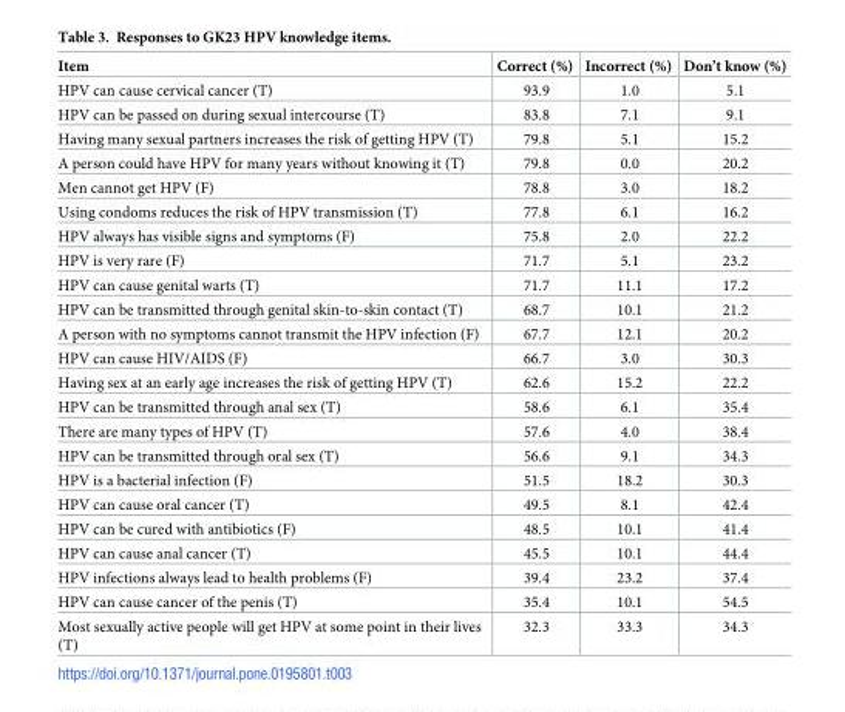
<table><thead><tr><td>Item</td><td>Correct (%)</td><td>Incorrect (%)</td><td>Don’t know (%)</td></tr></thead><tbody><tr><td>HPV can cause cervical cancer (T)</td><td>93.9</td><td>1.0</td><td>5.1</td></tr><tr><td>HPV can be passed on during sexual intercourse (T)</td><td>83.8</td><td>7.1</td><td>9.1</td></tr><tr><td>Having many sexual partners increases the risk of getting HPV (T)</td><td>79.8</td><td>5.1</td><td>15.2</td></tr><tr><td>A person could have HPV for many years without knowing it (T)</td><td>79.8</td><td>0.0</td><td>20.2</td></tr><tr><td>Men cannot get HPV (F)</td><td>78.8</td><td>3.0</td><td>18.2</td></tr><tr><td>Using condoms reduces the risk of HPV transmission (T)</td><td>77.8</td><td>6.1</td><td>16.2</td></tr><tr><td>HPV always has visible signs and symptoms (F)</td><td>75.8</td><td>2.0</td><td>22.2</td></tr><tr><td>HPV is very rare (F)</td><td>71.7</td><td>5.1</td><td>23.2</td></tr><tr><td>HPV can cause genital warts (T)</td><td>71.7</td><td>11.1</td><td>17.2</td></tr><tr><td>HPV can be transmitted through genital skin-to-skin contact (T)</td><td>68.7</td><td>10.1</td><td>21.2</td></tr><tr><td>A person with no symptoms cannot transmit the HPV infection (F)</td><td>67.7</td><td>12.1</td><td>20.2</td></tr><tr><td>HPV can cause HIV/AIDS (F)</td><td>66.7</td><td>3.0</td><td>30.3</td></tr><tr><td>Having sex at an early age increases the risk of getting HPV (T)</td><td>62.6</td><td>15.2</td><td>22.2</td></tr><tr><td>HPV can be transmitted through anal sex (T)</td><td>58.6</td><td>6.1</td><td>35.4</td></tr><tr><td>There are many types of HPV (T)</td><td>57.6</td><td>4.0</td><td>38.4</td></tr><tr><td>HPV can be transmitted through oral sex (T)</td><td>56.6</td><td>9.1</td><td>34.3</td></tr><tr><td>HPV is a bacterial infection (F)</td><td>51.5</td><td>18.2</td><td>30.3</td></tr><tr><td>HPV can cause oral cancer (T)</td><td>49.5</td><td>8.1</td><td>42.4</td></tr><tr><td>HPV can be cured with antibiotics (F)</td><td>48.5</td><td>10.1</td><td>41.4</td></tr><tr><td>HPV can cause anal cancer (T)</td><td>45.5</td><td>10.1</td><td>44.4</td></tr><tr><td>HPV infections always lead to health problems (F)</td><td>39.4</td><td>23.2</td><td>37.4</td></tr><tr><td>HPV can cause cancer of the penis (T)</td><td>35.4</td><td>10.1</td><td>54.5</td></tr><tr><td>Most sexually active people will get HPV at some point in their lives (T)</td><td>32.3</td><td>33.3</td><td>34.3</td></tr></tbody></table>